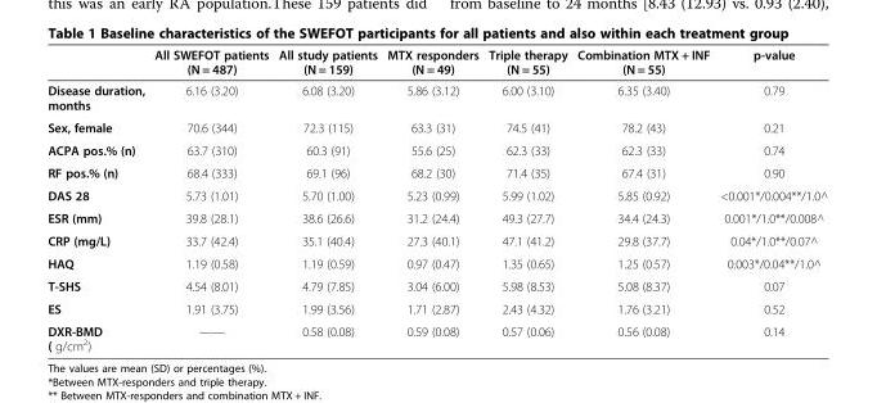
<table><thead><tr><td></td><td>All SWEFOT patients (N = 487)</td><td>All study patients (N = 159)</td><td>MTX responders (N = 49)</td><td>Triple therapy (N = 55)</td><td>Combination MTX + INF (N = 55)</td><td>p-value</td></tr></thead><tbody><tr><td>Disease duration, months</td><td>6.16 (3.20)</td><td>6.08 (3.20)</td><td>5.86 (3.12)</td><td>6.00 (3.10)</td><td>6.35 (3.40)</td><td>0.79</td></tr><tr><td>Sex, female</td><td>70.6 (344)</td><td>72.3 (115)</td><td>63.3 (31)</td><td>74.5 (41)</td><td>78.2 (43)</td><td>0.21</td></tr><tr><td>ACPA pos.% (n)</td><td>63.7 (310)</td><td>60.3 (91)</td><td>55.6 (25)</td><td>62.3 (33)</td><td>62.3 (33)</td><td>0.74</td></tr><tr><td>RF pos.% (n)</td><td>68.4 (333)</td><td>69.1 (96)</td><td>68.2 (30)</td><td>71.4 (35)</td><td>67.4 (31)</td><td>0.90</td></tr><tr><td>DAS 28</td><td>5.73 (1.01)</td><td>5.70 (1.00)</td><td>5.23 (0.99)</td><td>5.99 (1.02)</td><td>5.85 (0.92)</td><td>&lt;0.001*/0.004**/1.0^</td></tr><tr><td>ESR (mm)</td><td>39.8 (28.1)</td><td>38.6 (26.6)</td><td>31.2 (24.4)</td><td>49.3 (27.7)</td><td>34.4 (24.3)</td><td>0.001*/1.0**/0.008^</td></tr><tr><td>CRP (mg/L)</td><td>33.7 (42.4)</td><td>35.1 (40.4)</td><td>27.3 (40.1)</td><td>47.1 (41.2)</td><td>29.8 (37.7)</td><td>0.04*/1.0**/0.07^</td></tr><tr><td>HAQ</td><td>1.19 (0.58)</td><td>1.19 (0.59)</td><td>0.97 (0.47)</td><td>1.35 (0.65)</td><td>1.25 (0.57)</td><td>0.003*/0.04**/1.0^</td></tr><tr><td>T-SHS</td><td>4.54 (8.01)</td><td>4.79 (7.85)</td><td>3.04 (6.00)</td><td>5.98 (8.53)</td><td>5.08 (8.37)</td><td>0.07</td></tr><tr><td>ES</td><td>1.91 (3.75)</td><td>1.99 (3.56)</td><td>1.71 (2.87)</td><td>2.43 (4.32)</td><td>1.76 (3.21)</td><td>0.52</td></tr><tr><td>DXR-BMD ( g/cm<sup>2</sup>)</td><td>——</td><td>0.58 (0.08)</td><td>0.59 (0.08)</td><td>0.57 (0.06)</td><td>0.56 (0.08)</td><td>0.14</td></tr></tbody></table>